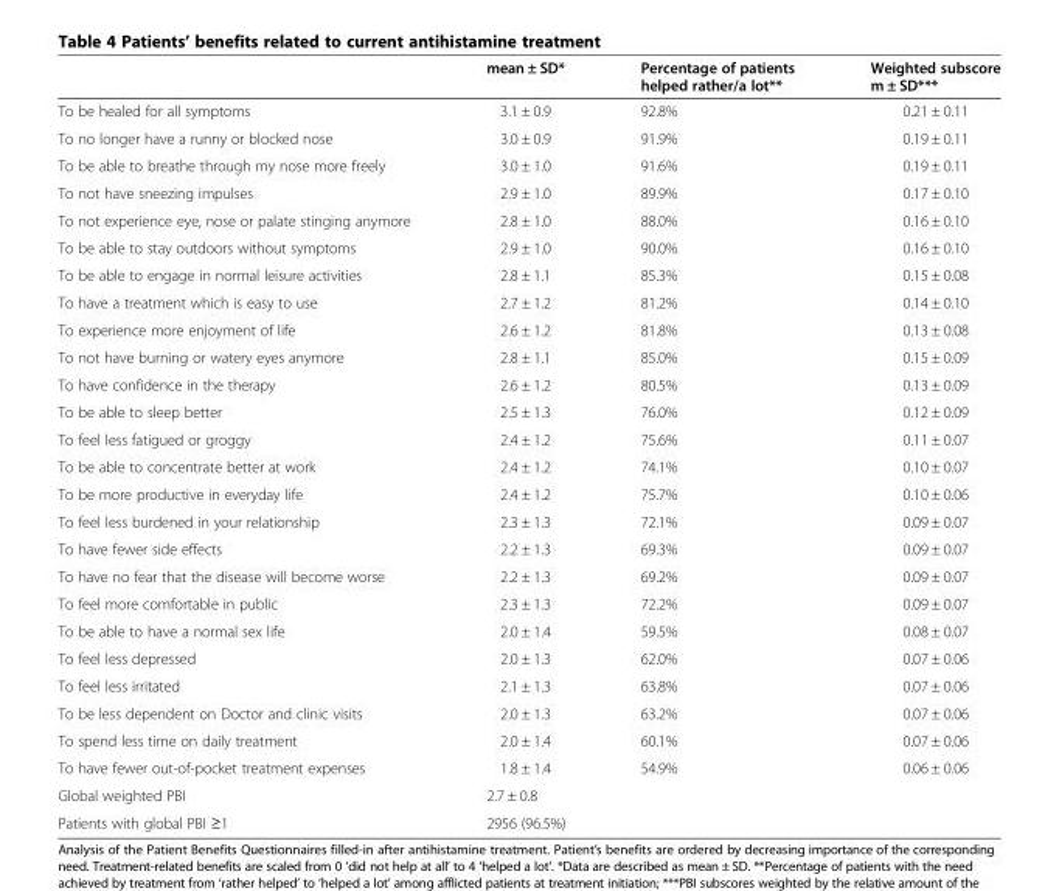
<table><thead><tr><td></td><td>mean ± SD*</td><td>Percentage of patients helped rather/a lot**</td><td>Weighted subscore m ± SD***</td></tr></thead><tbody><tr><td>To be healed for all symptoms</td><td>3.1 ± 0.9</td><td>92.8%</td><td>0.21 ± 0.11</td></tr><tr><td>To no longer have a runny or blocked nose</td><td>3.0 ± 0.9</td><td>91.9%</td><td>0.19 ± 0.11</td></tr><tr><td>To be able to breathe through my nose more freely</td><td>3.0 ± 1.0</td><td>91.6%</td><td>0.19 ± 0.11</td></tr><tr><td>To not have sneezing impulses</td><td>2.9 ± 1.0</td><td>89.9%</td><td>0.17 ± 0.10</td></tr><tr><td>To not experience eye, nose or palate stinging anymore</td><td>2.8 ± 1.0</td><td>88.0%</td><td>0.16 ± 0.10</td></tr><tr><td>To be able to stay outdoors without symptoms</td><td>2.9 ± 1.0</td><td>90.0%</td><td>0.16 ± 0.10</td></tr><tr><td>To be able to engage in normal leisure activities</td><td>2.8 ± 1.1</td><td>85.3%</td><td>0.15 ± 0.08</td></tr><tr><td>To have a treatment which is easy to use</td><td>2.7 ± 1.2</td><td>81.2%</td><td>0.14 ± 0.10</td></tr><tr><td>To experience more enjoyment of life</td><td>2.6 ± 1.2</td><td>81.8%</td><td>0.13 ± 0.08</td></tr><tr><td>To not have burning or watery eyes anymore</td><td>2.8 ± 1.1</td><td>85.0%</td><td>0.15 ± 0.09</td></tr><tr><td>To have confidence in the therapy</td><td>2.6 ± 1.2</td><td>80.5%</td><td>0.13 ± 0.09</td></tr><tr><td>To be able to sleep better</td><td>2.5 ± 1.3</td><td>76.0%</td><td>0.12 ± 0.09</td></tr><tr><td>To feel less fatigued or groggy</td><td>2.4 ± 1.2</td><td>75.6%</td><td>0.11 ± 0.07</td></tr><tr><td>To be able to concentrate better at work</td><td>2.4 ± 1.2</td><td>74.1%</td><td>0.10 ± 0.07</td></tr><tr><td>To be more productive in everyday life</td><td>2.4 ± 1.2</td><td>75.7%</td><td>0.10 ± 0.06</td></tr><tr><td>To feel less burdened in your relationship</td><td>2.3 ± 1.3</td><td>72.1%</td><td>0.09 ± 0.07</td></tr><tr><td>To have fewer side effects</td><td>2.2 ± 1.3</td><td>69.3%</td><td>0.09 ± 0.07</td></tr><tr><td>To have no fear that the disease will become worse</td><td>2.2 ± 1.3</td><td>69.2%</td><td>0.09 ± 0.07</td></tr><tr><td>To feel more comfortable in public</td><td>2.3 ± 1.3</td><td>72.2%</td><td>0.09 ± 0.07</td></tr><tr><td>To be able to have a normal sex life</td><td>2.0 ± 1.4</td><td>59.5%</td><td>0.08 ± 0.07</td></tr><tr><td>To feel less depressed</td><td>2.0 ± 1.3</td><td>62.0%</td><td>0.07 ± 0.06</td></tr><tr><td>To feel less irritated</td><td>2.1 ± 1.3</td><td>63.8%</td><td>0.07 ± 0.06</td></tr><tr><td>To be less dependent on Doctor and clinic visits</td><td>2.0 ± 1.3</td><td>63.2%</td><td>0.07 ± 0.06</td></tr><tr><td>To spend less time on daily treatment</td><td>2.0 ± 1.4</td><td>60.1%</td><td>0.07 ± 0.06</td></tr><tr><td>To have fewer out-of-pocket treatment expenses</td><td>1.8 ± 1.4</td><td>54.9%</td><td>0.06 ± 0.06</td></tr><tr><td>Global weighted PBI</td><td colspan="3">2.7 ± 0.8</td></tr><tr><td>Patients with global PBI ≥1</td><td colspan="3">2956 (96.5%)</td></tr></tbody></table>